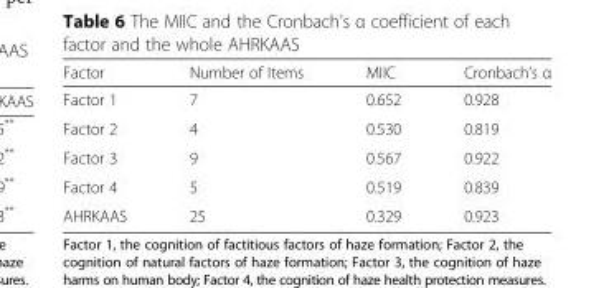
<table><thead><tr><td>Factor</td><td>Number of Items</td><td>MIIC</td><td>Cronbach’s α</td></tr></thead><tbody><tr><td>Factor 1</td><td>7</td><td>0.652</td><td>0.928</td></tr><tr><td>Factor 2</td><td>4</td><td>0.530</td><td>0.819</td></tr><tr><td>Factor 3</td><td>9</td><td>0.567</td><td>0.922</td></tr><tr><td>Factor 4</td><td>5</td><td>0.519</td><td>0.839</td></tr><tr><td>AHRKAAS</td><td>25</td><td>0.329</td><td>0.923</td></tr></tbody></table>